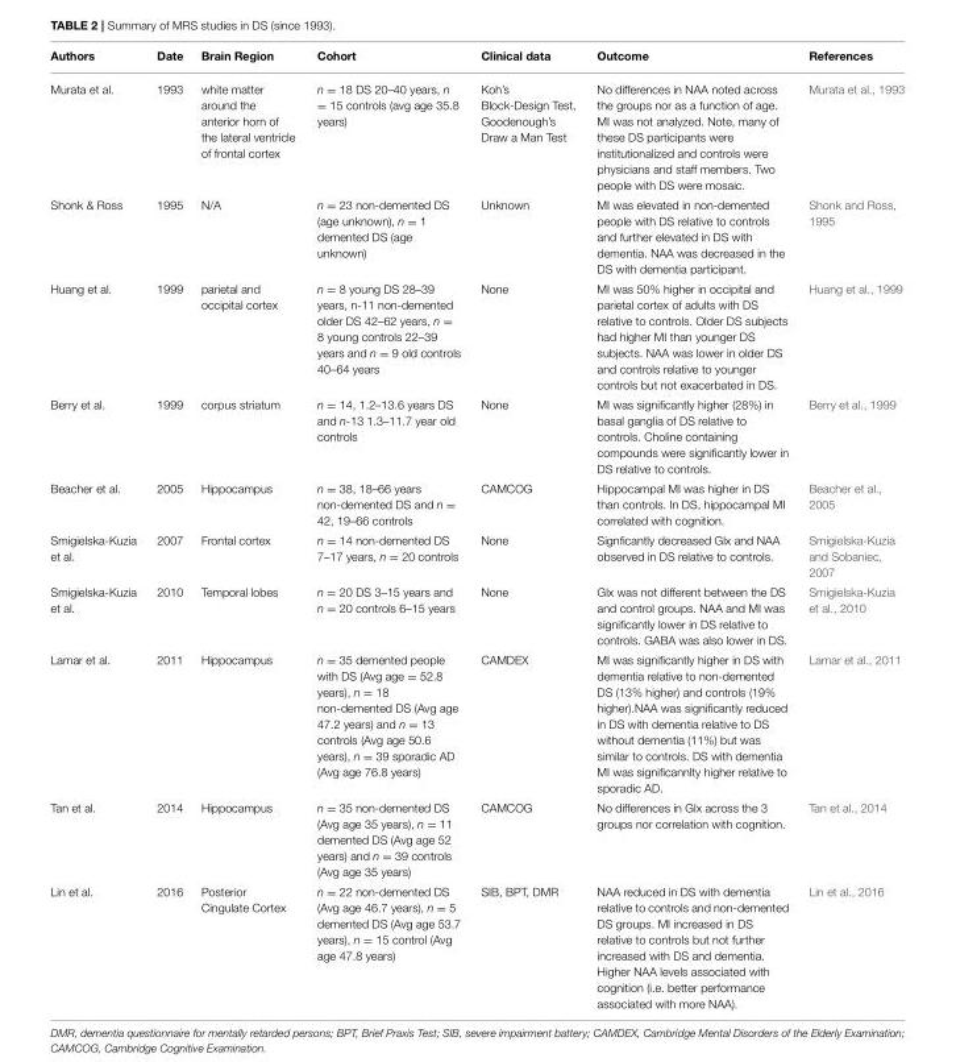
<table><thead><tr><td>Authors</td><td>Date</td><td>Brain Region</td><td>Cohort</td><td>Clinical data</td><td>Outcome</td><td>References</td></tr></thead><tbody><tr><td>Murata et al.</td><td>1993</td><td>white matter around the anterior horn of the lateral ventricle of frontal cortex</td><td>n = 18 DS 20–40 years, n = 15 controls (avg age 35.8 years)</td><td>Koh’s Block-Design Test, Goodenough’s Draw a Man Test</td><td>No differences in NAA noted across the groups nor as a function of age. MI was not analyzed. Note, many of these DS participants were institutionalized and controls were physicians and staff members. Two people with DS were mosaic.</td><td>Murata et al., 1993</td></tr><tr><td>Shonk &amp; Ross</td><td>1995</td><td>N/A</td><td>n = 23 non-demented DS (age unknown), n = 1 demented DS (age unknown)</td><td>Unknown</td><td>MI was elevated in non-demented people with DS relative to controls and further elevated in DS with dementia. NAA was decreased in the DS with dementia participant.</td><td>Shonk and Ross, 1995</td></tr><tr><td>Huang et al.</td><td>1999</td><td>parietal and occipital cortex</td><td>n = 8 young DS 28–39 years, n-11 non-demented older DS 42–62 years, n = 8 young controls 22–39 years and n = 9 old controls 40–64 years</td><td>None</td><td>MI was 50% higher in occipital and parietal cortex of adults with DS relative to controls. Older DS subjects had higher MI than younger DS subjects. NAA was lower in older DS and controls relative to younger controls but not exacerbated in DS.</td><td>Huang et al., 1999</td></tr><tr><td>Berry et al.</td><td>1999</td><td>corpus striatum</td><td>n = 14, 1.2–13.6 years DS and n-13 1.3–11.7 year old controls</td><td>None</td><td>MI was significantly higher (28%) in basal ganglia of DS relative to controls. Choline containing compounds were significantly lower in DS relative to controls.</td><td>Berry et al., 1999</td></tr><tr><td>Beacher et al.</td><td>2005</td><td>Hippocampus</td><td>n = 38, 18–66 years non-demented DS and n = 42, 19–66 controls</td><td>CAMCOG</td><td>Hippocampal MI was higher in DS than controls. In DS, hippocampal MI correlated with cognition.</td><td>Beacher et al., 2005</td></tr><tr><td>Smigielska-Kuzia et al.</td><td>2007</td><td>Frontal cortex</td><td>n = 14 non-demented DS 7–17 years, n = 20 controls</td><td>None</td><td>Signficantly decreased Glx and NAA observed in DS relative to controls.</td><td>Smigielska-Kuzia and Sobaniec, 2007</td></tr><tr><td>Smigielska-Kuzia et al.</td><td>2010</td><td>Temporal lobes</td><td>n = 20 DS 3–15 years and n = 20 controls 6–15 years</td><td>None</td><td>Glx was not different between the DS and control groups. NAA and MI was significantly lower in DS relative to controls. GABA was also lower in DS.</td><td>Smigielska-Kuzia et al., 2010</td></tr><tr><td>Lamar et al.</td><td>2011</td><td>Hippocampus</td><td>n = 35 demented people with DS (Avg age = 52.8 years), n = 18 non-demented DS (Avg age 47.2 years) and n = 13 controls (Avg age 50.6 years), n = 39 sporadic AD (Avg age 76.8 years)</td><td>CAMDEX</td><td>MI was significantly higher in DS with dementia relative to non-demented DS (13% higher) and controls (19% higher).NAA was significantly reduced in DS with dementia relative to DS without dementia (11%) but was similar to controls. DS with dementia MI was significannlty higher relative to sporadic AD.</td><td>Lamar et al., 2011</td></tr><tr><td>Tan et al.</td><td>2014</td><td>Hippocampus</td><td>n = 35 non-demented DS (Avg age 35 years), n = 11 demented DS (Avg age 52 years) and n = 39 controls (Avg age 35 years)</td><td>CAMCOG</td><td>No differences in Glx across the 3 groups nor correlation with cognition.</td><td>Tan et al., 2014</td></tr><tr><td>Lin et al.</td><td>2016</td><td>Posterior Cingulate Cortex</td><td>n = 22 non-demented DS (Avg age 46.7 years), n = 5 demented DS (Avg age 53.7 years), n = 15 control (Avg age 47.8 years)</td><td>SIB, BPT, DMR</td><td>NAA reduced in DS with dementia relative to controls and non-demented DS groups. MI increased in DS relative to controls but not further increased with DS and dementia. Higher NAA levels associated with cognition (i.e. better performance associated with more NAA).</td><td>Lin et al., 2016</td></tr></tbody></table>